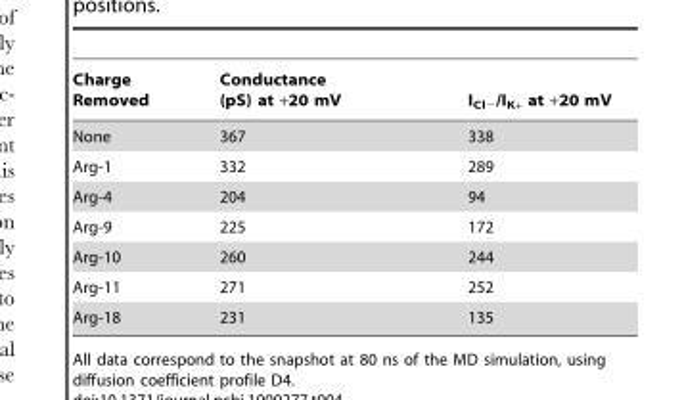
<table><thead><tr><td>Charge Removed</td><td>Conductance (pS) at +20 mV</td><td>I<sub>Cl−</sub>/I<sub>K+</sub> at +20 mV</td></tr></thead><tbody><tr><td>None</td><td>367</td><td>338</td></tr><tr><td>Arg-1</td><td>332</td><td>289</td></tr><tr><td>Arg-4</td><td>204</td><td>94</td></tr><tr><td>Arg-9</td><td>225</td><td>172</td></tr><tr><td>Arg-10</td><td>260</td><td>244</td></tr><tr><td>Arg-11</td><td>271</td><td>252</td></tr><tr><td>Arg-18</td><td>231</td><td>135</td></tr></tbody></table>